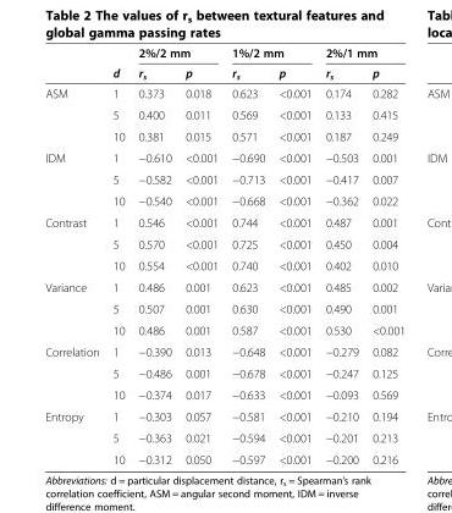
<table><thead><tr><td rowspan="2"></td><td rowspan="2">d</td><td colspan="2">2%/2 mm</td><td colspan="2">1%/2 mm</td><td colspan="2">2%/1 mm</td></tr><tr><td>r<sub>s</sub></td><td>p</td><td>r<sub>s</sub></td><td>p</td><td>r<sub>s</sub></td><td>p</td></tr></thead><tbody><tr><td rowspan="3">ASM</td><td>1</td><td>0.373</td><td>0.018</td><td>0.623</td><td>&lt;0.001</td><td>0.174</td><td>0.282</td></tr><tr><td>5</td><td>0.400</td><td>0.011</td><td>0.569</td><td>&lt;0.001</td><td>0.133</td><td>0.415</td></tr><tr><td>10</td><td>0.381</td><td>0.015</td><td>0.571</td><td>&lt;0.001</td><td>0.187</td><td>0.249</td></tr><tr><td rowspan="3">IDM</td><td>1</td><td>−0.610</td><td>&lt;0.001</td><td>−0.690</td><td>&lt;0.001</td><td>−0.503</td><td>0.001</td></tr><tr><td>5</td><td>−0.582</td><td>&lt;0.001</td><td>−0.713</td><td>&lt;0.001</td><td>−0.417</td><td>0.007</td></tr><tr><td>10</td><td>−0.540</td><td>&lt;0.001</td><td>−0.668</td><td>&lt;0.001</td><td>−0.362</td><td>0.022</td></tr><tr><td rowspan="3">Contrast</td><td>1</td><td>0.546</td><td>&lt;0.001</td><td>0.744</td><td>&lt;0.001</td><td>0.487</td><td>0.001</td></tr><tr><td>5</td><td>0.570</td><td>&lt;0.001</td><td>0.725</td><td>&lt;0.001</td><td>0.450</td><td>0.004</td></tr><tr><td>10</td><td>0.554</td><td>&lt;0.001</td><td>0.740</td><td>&lt;0.001</td><td>0.402</td><td>0.010</td></tr><tr><td rowspan="3">Variance</td><td>1</td><td>0.486</td><td>0.001</td><td>0.623</td><td>&lt;0.001</td><td>0.485</td><td>0.002</td></tr><tr><td>5</td><td>0.507</td><td>0.001</td><td>0.630</td><td>&lt;0.001</td><td>0.490</td><td>0.001</td></tr><tr><td>10</td><td>0.486</td><td>0.001</td><td>0.587</td><td>&lt;0.001</td><td>0.530</td><td>&lt;0.001</td></tr><tr><td rowspan="3">Correlation</td><td>1</td><td>−0.390</td><td>0.013</td><td>−0.648</td><td>&lt;0.001</td><td>−0.279</td><td>0.082</td></tr><tr><td>5</td><td>−0.486</td><td>0.001</td><td>−0.678</td><td>&lt;0.001</td><td>−0.247</td><td>0.125</td></tr><tr><td>10</td><td>−0.374</td><td>0.017</td><td>−0.633</td><td>&lt;0.001</td><td>−0.093</td><td>0.569</td></tr><tr><td rowspan="3">Entropy</td><td>1</td><td>−0.303</td><td>0.057</td><td>−0.581</td><td>&lt;0.001</td><td>−0.210</td><td>0.194</td></tr><tr><td>5</td><td>−0.363</td><td>0.021</td><td>−0.594</td><td>&lt;0.001</td><td>−0.201</td><td>0.213</td></tr><tr><td>10</td><td>−0.312</td><td>0.050</td><td>−0.597</td><td>&lt;0.001</td><td>−0.200</td><td>0.216</td></tr></tbody></table>